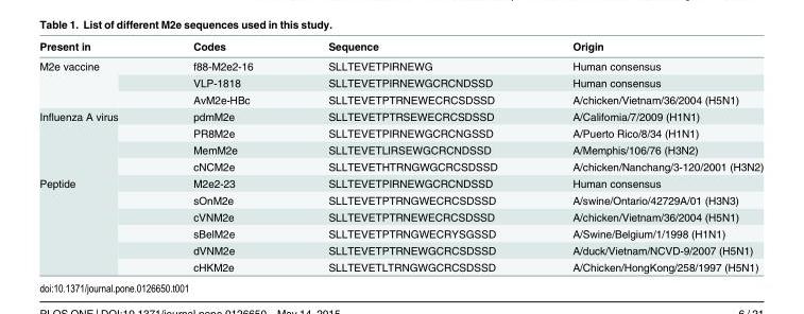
<table><thead><tr><td>Present in</td><td>Codes</td><td>Sequence</td><td>Origin</td></tr></thead><tbody><tr><td rowspan="3">M2e vaccine</td><td>f88-M2e2-16</td><td>SLLTEVETPIRNEWG</td><td>Human consensus</td></tr><tr><td>VLP-1818</td><td>SLLTEVETPIRNEWGCRCNDSSD</td><td>Human consensus</td></tr><tr><td>AvM2e-HBc</td><td>SLLTEVETPTRNEWECRCSDSSD</td><td>A/chicken/Vietnam/36/2004 (H5N1)</td></tr><tr><td rowspan="4">Influenza A virus</td><td>pdmM2e</td><td>SLLTEVETPTRSEWECRCSDSSD</td><td>A/California/7/2009 (H1N1)</td></tr><tr><td>PR8M2e</td><td>SLLTEVETPIRNEWGCRCNGSSD</td><td>A/Puerto Rico/8/34 (H1N1)</td></tr><tr><td>MemM2e</td><td>SLLTEVETLIRSEWGCRCNDSSD</td><td>A/Memphis/106/76 (H3N2)</td></tr><tr><td>cNCM2e</td><td>SLLTEVETHTRNGWGCRCSDSSD</td><td>A/chicken/Nanchang/3-120/2001 (H3N2)</td></tr><tr><td rowspan="6">Peptide</td><td>M2e2-23</td><td>SLLTEVETPIRNEWGCRCNDSSD</td><td>Human consensus</td></tr><tr><td>sOnM2e</td><td>SLLTEVETPTRNGWECRCSDSSD</td><td>A/swine/Ontario/42729A/01 (H3N3)</td></tr><tr><td>cVNM2e</td><td>SLLTEVETPTRNEWECRCSDSSD</td><td>A/chicken/Vietnam/36/2004 (H5N1)</td></tr><tr><td>sBelM2e</td><td>SLLTEVETPTRNGWECRYSGSSD</td><td>A/Swine/Belgium/1/1998 (H1N1)</td></tr><tr><td>dVNM2e</td><td>SLLTEVETPTRNEWGCRCSDSSD</td><td>A/duck/Vietnam/NCVD-9/2007 (H5N1)</td></tr><tr><td>cHKM2e</td><td>SLLTEVETLTRNGWGCRCSDSSD</td><td>A/Chicken/HongKong/258/1997 (H5N1)</td></tr></tbody></table>